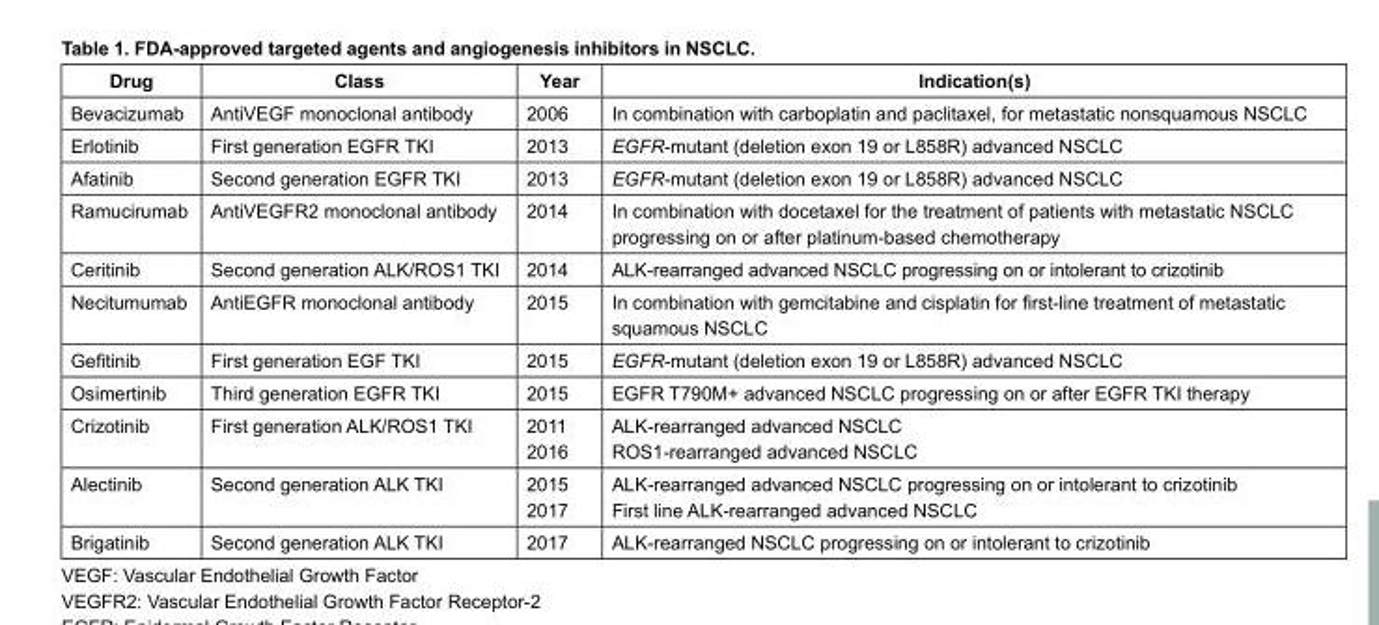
<table><thead><tr><td>Drug</td><td>Class</td><td>Year</td><td>Indication(s)</td></tr></thead><tbody><tr><td>Bevacizumab</td><td>AntiVEGF monoclonal antibody</td><td>2006</td><td>In combination with carboplatin and paclitaxel, for metastatic nonsquamous NSCLC</td></tr><tr><td>Erlotinib</td><td>First generation EGFR TKI</td><td>2013</td><td>EGFR-mutant (deletion exon 19 or L858R) advanced NSCLC</td></tr><tr><td>Afatinib</td><td>Second generation EGFR TKI</td><td>2013</td><td>EGFR-mutant (deletion exon 19 or L858R) advanced NSCLC</td></tr><tr><td>Ramucirumab</td><td>AntiVEGFR2 monoclonal antibody</td><td>2014</td><td>In combination with docetaxel for the treatment of patients with metastatic NSCLC progressing on or after platinum-based chemotherapy</td></tr><tr><td>Ceritinib</td><td>Second generation ALK/ROS1 TKI</td><td>2014</td><td>ALK-rearranged advanced NSCLC progressing on or intolerant to crizotinib</td></tr><tr><td>Necitumumab</td><td>AntiEGFR monoclonal antibody</td><td>2015</td><td>In combination with gemcitabine and cisplatin for first-line treatment of metastatic squamous NSCLC</td></tr><tr><td>Gefitinib</td><td>First generation EGF TKI</td><td>2015</td><td>EGFR-mutant (deletion exon 19 or L858R) advanced NSCLC</td></tr><tr><td>Osimertinib</td><td>Third generation EGFR TKI</td><td>2015</td><td>EGFR T790M+ advanced NSCLC progressing on or after EGFR TKI therapy</td></tr><tr><td>Crizotinib</td><td>First generation ALK/ROS1 TKI</td><td>2011 2016</td><td>ALK-rearranged advanced NSCLC ROS1-rearranged advanced NSCLC</td></tr><tr><td>Alectinib</td><td>Second generation ALK TKI</td><td>2015 2017</td><td>ALK-rearranged advanced NSCLC progressing on or intolerant to crizotinib First line ALK-rearranged advanced NSCLC</td></tr><tr><td>Brigatinib</td><td>Second generation ALK TKI</td><td>2017</td><td>ALK-rearranged NSCLC progressing on or intolerant to crizotinib</td></tr></tbody></table>